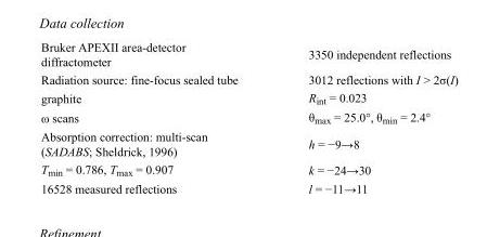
<table><tbody><tr><td>Bruker APEXII area-detector diffractometer</td><td>3350 independent reflections</td></tr><tr><td>Radiation source: fine-focus sealed tube</td><td>3012 reflections with I &gt; 2σ(I)</td></tr><tr><td>graphite</td><td>R<sub>int</sub> = 0.023</td></tr><tr><td>ω scans</td><td>θ<sub>max</sub> = 25.0°, θ<sub>min</sub> = 2.4°</td></tr><tr><td>Absorption correction: multi-scan (SADABS; Sheldrick, 1996)</td><td>h = −9→8</td></tr><tr><td>T<sub>min</sub> = 0.786, T<sub>max</sub> = 0.907</td><td>k = −24→30</td></tr><tr><td>16528 measured reflections</td><td>l = −11→11</td></tr></tbody></table>